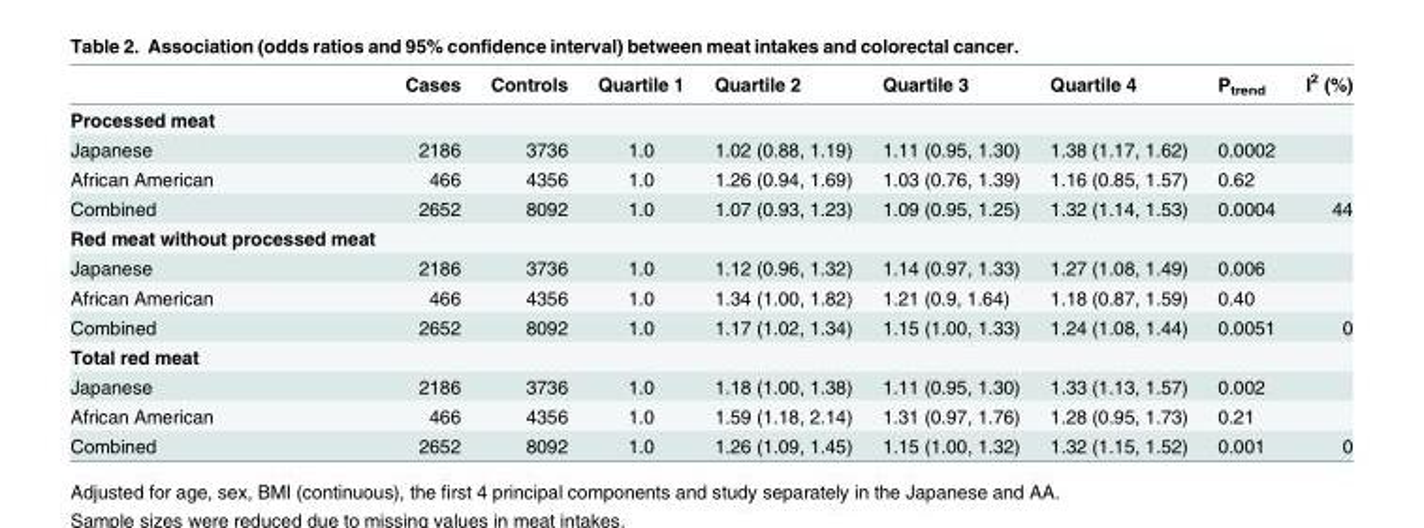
<table><thead><tr><td></td><td>Cases</td><td>Controls</td><td>Quartile 1</td><td>Quartile 2</td><td>Quartile 3</td><td>Quartile 4</td><td>P<sub>trend</sub></td><td>I<sup>2</sup> (%)</td></tr></thead><tbody><tr><td colspan="9">Processed meat</td></tr><tr><td>Japanese</td><td>2186</td><td>3736</td><td>1.0</td><td>1.02 (0.88, 1.19)</td><td>1.11 (0.95, 1.30)</td><td>1.38 (1.17, 1.62)</td><td>0.0002</td><td></td></tr><tr><td>African American</td><td>466</td><td>4356</td><td>1.0</td><td>1.26 (0.94, 1.69)</td><td>1.03 (0.76, 1.39)</td><td>1.16 (0.85, 1.57)</td><td>0.62</td><td></td></tr><tr><td>Combined</td><td>2652</td><td>8092</td><td>1.0</td><td>1.07 (0.93, 1.23)</td><td>1.09 (0.95, 1.25)</td><td>1.32 (1.14, 1.53)</td><td>0.0004</td><td>44</td></tr><tr><td colspan="9">Red meat without processed meat</td></tr><tr><td>Japanese</td><td>2186</td><td>3736</td><td>1.0</td><td>1.12 (0.96, 1.32)</td><td>1.14 (0.97, 1.33)</td><td>1.27 (1.08, 1.49)</td><td>0.006</td><td></td></tr><tr><td>African American</td><td>466</td><td>4356</td><td>1.0</td><td>1.34 (1.00, 1.82)</td><td>1.21 (0.9, 1.64)</td><td>1.18 (0.87, 1.59)</td><td>0.40</td><td></td></tr><tr><td>Combined</td><td>2652</td><td>8092</td><td>1.0</td><td>1.17 (1.02, 1.34)</td><td>1.15 (1.00, 1.33)</td><td>1.24 (1.08, 1.44)</td><td>0.0051</td><td>0</td></tr><tr><td colspan="9">Total red meat</td></tr><tr><td>Japanese</td><td>2186</td><td>3736</td><td>1.0</td><td>1.18 (1.00, 1.38)</td><td>1.11 (0.95, 1.30)</td><td>1.33 (1.13, 1.57)</td><td>0.002</td><td></td></tr><tr><td>African American</td><td>466</td><td>4356</td><td>1.0</td><td>1.59 (1.18, 2.14)</td><td>1.31 (0.97, 1.76)</td><td>1.28 (0.95, 1.73)</td><td>0.21</td><td></td></tr><tr><td>Combined</td><td>2652</td><td>8092</td><td>1.0</td><td>1.26 (1.09, 1.45)</td><td>1.15 (1.00, 1.32)</td><td>1.32 (1.15, 1.52)</td><td>0.001</td><td>0</td></tr></tbody></table>